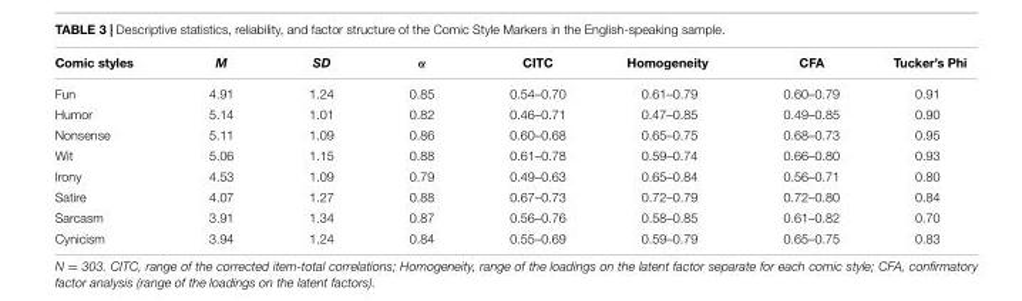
<table><thead><tr><td>Comic styles</td><td>M</td><td>SD</td><td>α</td><td>CITC</td><td>Homogeneity</td><td>CFA</td><td>Tucker’s Phi</td></tr></thead><tbody><tr><td>Fun</td><td>4.91</td><td>1.24</td><td>0.85</td><td>0.54–0.70</td><td>0.61–0.79</td><td>0.60–0.79</td><td>0.91</td></tr><tr><td>Humor</td><td>5.14</td><td>1.01</td><td>0.82</td><td>0.46–0.71</td><td>0.47–0.85</td><td>0.49–0.85</td><td>0.90</td></tr><tr><td>Nonsense</td><td>5.11</td><td>1.09</td><td>0.86</td><td>0.60–0.68</td><td>0.65–0.75</td><td>0.68–0.73</td><td>0.95</td></tr><tr><td>Wit</td><td>5.06</td><td>1.15</td><td>0.88</td><td>0.61–0.78</td><td>0.59–0.74</td><td>0.66–0.80</td><td>0.93</td></tr><tr><td>Irony</td><td>4.53</td><td>1.09</td><td>0.79</td><td>0.49–0.63</td><td>0.65–0.84</td><td>0.56–0.71</td><td>0.80</td></tr><tr><td>Satire</td><td>4.07</td><td>1.27</td><td>0.88</td><td>0.67–0.73</td><td>0.72–0.79</td><td>0.72–0.80</td><td>0.84</td></tr><tr><td>Sarcasm</td><td>3.91</td><td>1.34</td><td>0.87</td><td>0.56–0.76</td><td>0.58–0.85</td><td>0.61–0.82</td><td>0.70</td></tr><tr><td>Cynicism</td><td>3.94</td><td>1.24</td><td>0.84</td><td>0.55–0.69</td><td>0.59–0.79</td><td>0.65–0.75</td><td>0.83</td></tr></tbody></table>